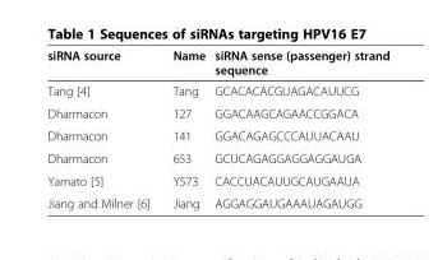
<table><thead><tr><td>siRNA source</td><td>Name</td><td>siRNA sense (passenger) strand sequence</td></tr></thead><tbody><tr><td>Tang [4]</td><td>Tang</td><td>GCACACACGUAGACAUUCG</td></tr><tr><td>Dharmacon</td><td>127</td><td>GGACAAGCAGAACCGGACA</td></tr><tr><td>Dharmacon</td><td>141</td><td>GGACAGAGCCCAUUACAAU</td></tr><tr><td>Dharmacon</td><td>653</td><td>GCUCAGAGGAGGAGGAUGA</td></tr><tr><td>Yamato [5]</td><td>Y573</td><td>CACCUACAUUGCAUGAAUA</td></tr><tr><td>Jiang and Milner [6]</td><td>Jiang</td><td>AGGAGGAUGAAAUAGAUGG</td></tr></tbody></table>